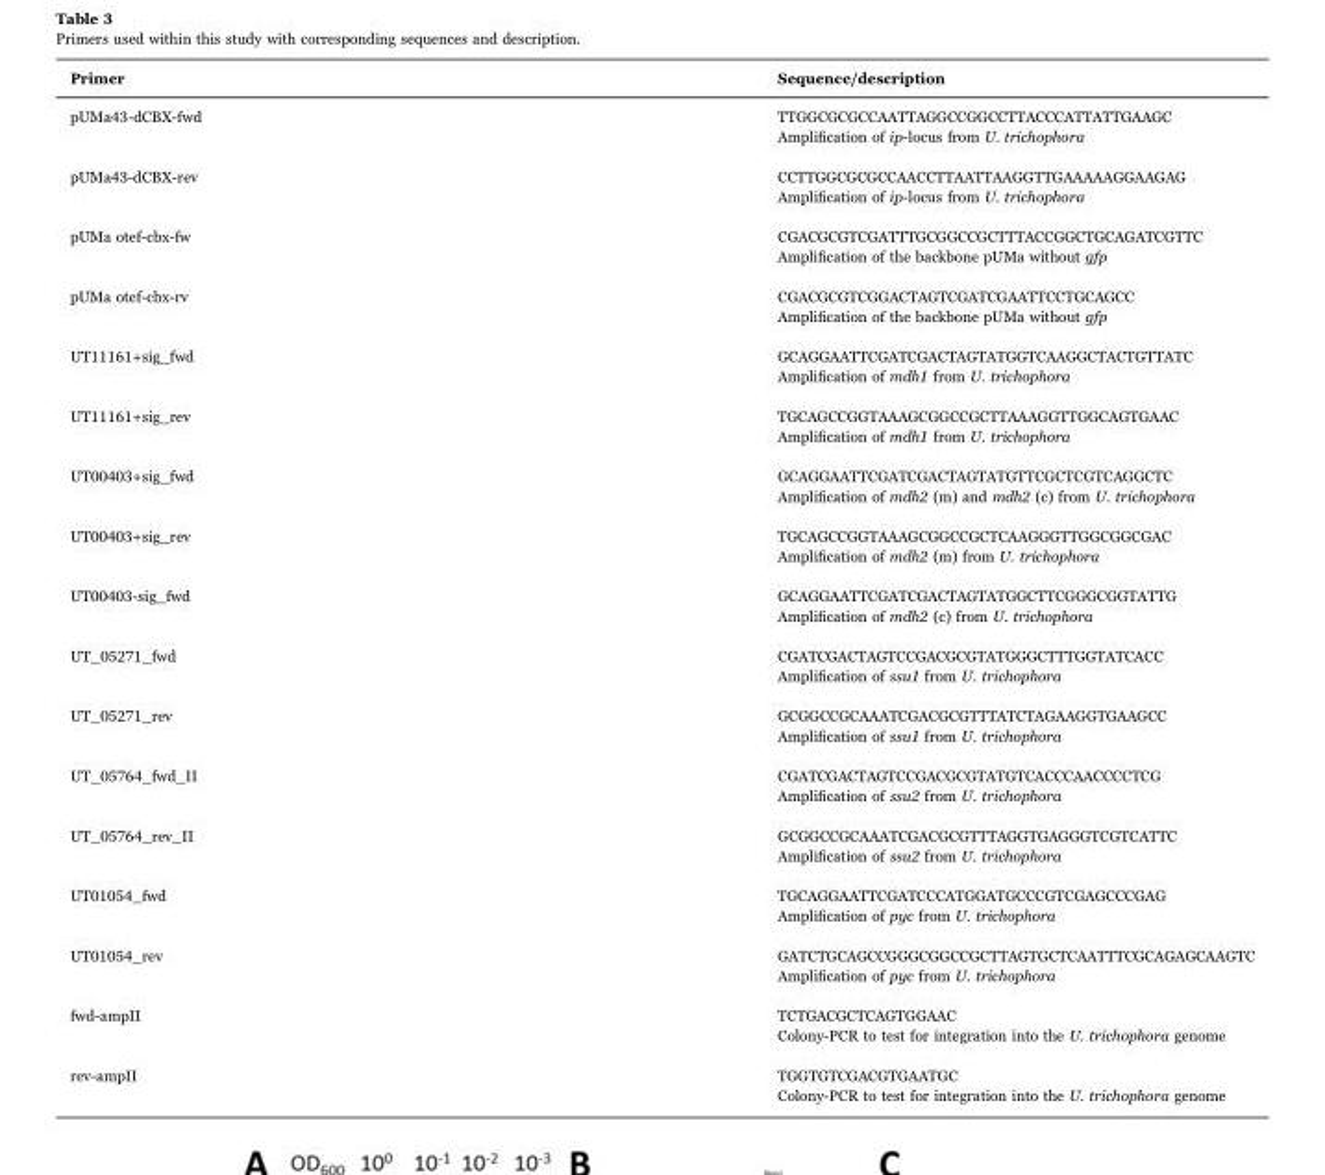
<table><thead><tr><td>Primer</td><td>Sequence/description</td></tr></thead><tbody><tr><td rowspan="2">pUMa43-dCBX-fwd</td><td>TTGGCGCGCCAATTAGGCCGGCCTTACCCATTATTGAAGC</td></tr><tr><td>Amplification of ip-locus from U. trichophora</td></tr><tr><td rowspan="2">pUMa43-dCBX-rev</td><td>CCTTGGCGCGCCAACCTTAATTAAGGTTGAAAAAGGAAGAG</td></tr><tr><td>Amplification of ip-locus from U. trichophora</td></tr><tr><td rowspan="2">pUMa otef-cbx-fw</td><td>CGACGCGTCGATTTGCGGCCGCTTTACCGGCTGCAGATCGTTC</td></tr><tr><td>Amplification of the backbone pUMa without gfp</td></tr><tr><td rowspan="2">pUMa otef-cbx-rv</td><td>CGACGCGTCGGACTAGTCGATCGAATTCCTGCAGCC</td></tr><tr><td>Amplification of the backbone pUMa without gfp</td></tr><tr><td rowspan="2">UT11161+sig_fwd</td><td>GCAGGAATTCGATCGACTAGTATGGTCAAGGCTACTGTTATC</td></tr><tr><td>Amplification of mdh1 from U. trichophora</td></tr><tr><td rowspan="2">UT11161+sig_rev</td><td>TGCAGCCGGTAAAGCGGCCGCTTAAAGGTTGGCAGTGAAC</td></tr><tr><td>Amplification of mdh1 from U. trichophora</td></tr><tr><td rowspan="2">UT00403+sig_fwd</td><td>GCAGGAATTCGATCGACTAGTATGTTCGCTCGTCAGGCTC</td></tr><tr><td>Amplification of mdh2 (m) and mdh2 (c) from U. trichophora</td></tr><tr><td rowspan="2">UT00403+sig_rev</td><td>TGCAGCCGGTAAAGCGGCCGCTCAAGGGTTGGCGGCGAC</td></tr><tr><td>Amplification of mdh2 (m) from U. trichophora</td></tr><tr><td rowspan="2">UT00403-sig_fwd</td><td>GCAGGAATTCGATCGACTAGTATGGCTTCGGGCGGTATTG</td></tr><tr><td>Amplification of mdh2 (c) from U. trichophora</td></tr><tr><td rowspan="2">UT_05271_fwd</td><td>CGATCGACTAGTCCGACGCGTATGGGCTTTGGTATCACC</td></tr><tr><td>Amplification of ssu1 from U. trichophora</td></tr><tr><td rowspan="2">UT_05271_rev</td><td>GCGGCCGCAAATCGACGCGTTTATCTAGAAGGTGAAGCC</td></tr><tr><td>Amplification of ssu1 from U. trichophora</td></tr><tr><td rowspan="2">UT_05764_fwd_II</td><td>CGATCGACTAGTCCGACGCGTATGTCACCCAACCCCTCG</td></tr><tr><td>Amplification of ssu2 from U. trichophora</td></tr><tr><td rowspan="2">UT_05764_rev_II</td><td>GCGGCCGCAAATCGACGCGTTTAGGTGAGGGTCGTCATTC</td></tr><tr><td>Amplification of ssu2 from U. trichophora</td></tr><tr><td rowspan="2">UT01054_fwd</td><td>TGCAGGAATTCGATCCCATGGATGCCCGTCGAGCCCGAG</td></tr><tr><td>Amplification of pyc from U. trichophora</td></tr><tr><td rowspan="2">UT01054_rev</td><td>GATCTGCAGCCGGGCGGCCGCTTAGTGCTCAATTTCGCAGAGCAAGTC</td></tr><tr><td>Amplification of pyc from U. trichophora</td></tr><tr><td rowspan="2">fwd-ampII</td><td>TCTGACGCTCAGTGGAAC</td></tr><tr><td>Colony-PCR to test for integration into the U. trichophora genome</td></tr><tr><td rowspan="2">rev-ampII</td><td>TGGTGTCGACGTGAATGC</td></tr><tr><td>Colony-PCR to test for integration into the U. trichophora genome</td></tr></tbody></table>